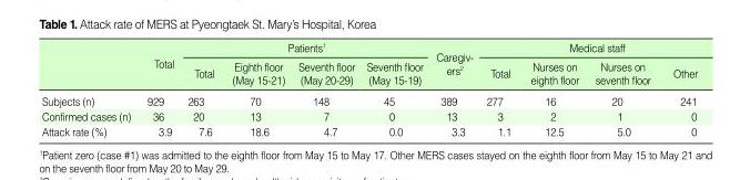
<table><thead><tr><td rowspan="2"></td><td rowspan="2">Total</td><td colspan="4">Patients<sup>1</sup></td><td rowspan="2">Caregiv ers<sup>2</sup></td><td colspan="4">Medical staff</td></tr><tr><td>Total</td><td>Eighth floor (May 1521)</td><td>Seventh floor (May 2029)</td><td>Seventh floor (May 1519)</td><td>Total</td><td>Nurses on eighth floor</td><td>Nurses on seventh floor</td><td>Other</td></tr></thead><tbody><tr><td>Subjects (n)</td><td>929</td><td>263</td><td>70</td><td>148</td><td>45</td><td>389</td><td>277</td><td>16</td><td>20</td><td>241</td></tr><tr><td>Confirmed cases (n)</td><td>36</td><td>20</td><td>13</td><td>7</td><td>0</td><td>13</td><td>3</td><td>2</td><td>1</td><td>0</td></tr><tr><td>Attack rate (%)</td><td>3.9</td><td>7.6</td><td>18.6</td><td>4.7</td><td>0.0</td><td>3.3</td><td>1.1</td><td>12.5</td><td>5.0</td><td>0</td></tr></tbody></table>